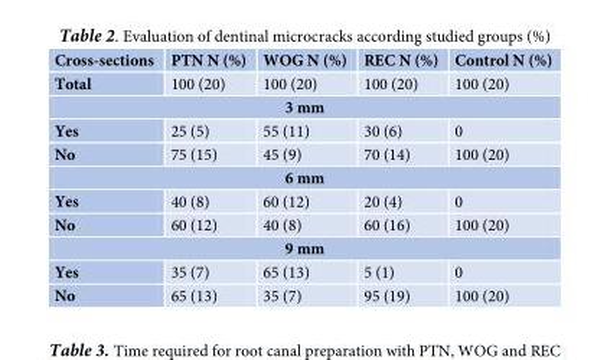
<table><thead><tr><td>Cross-sections</td><td>PTN N (%)</td><td>WOG N (%)</td><td>REC N (%)</td><td>Control N (%)</td></tr></thead><tbody><tr><td>Total</td><td>100 (20)</td><td>100 (20)</td><td>100 (20)</td><td>100 (20)</td></tr><tr><td colspan="5">3 mm</td></tr><tr><td>Yes</td><td>25 (5)</td><td>55 (11)</td><td>30 (6)</td><td>0</td></tr><tr><td>No</td><td>75 (15)</td><td>45 (9)</td><td>70 (14)</td><td>100 (20)</td></tr><tr><td colspan="5">6 mm</td></tr><tr><td>Yes</td><td>40 (8)</td><td>60 (12)</td><td>20 (4)</td><td>0</td></tr><tr><td>No</td><td>60 (12)</td><td>40 (8)</td><td>60 (16)</td><td>100 (20)</td></tr><tr><td colspan="5">9 mm</td></tr><tr><td>Yes</td><td>35 (7)</td><td>65 (13)</td><td>5 (1)</td><td>0</td></tr><tr><td>No</td><td>65 (13)</td><td>35 (7)</td><td>95 (19)</td><td>100 (20)</td></tr></tbody></table>